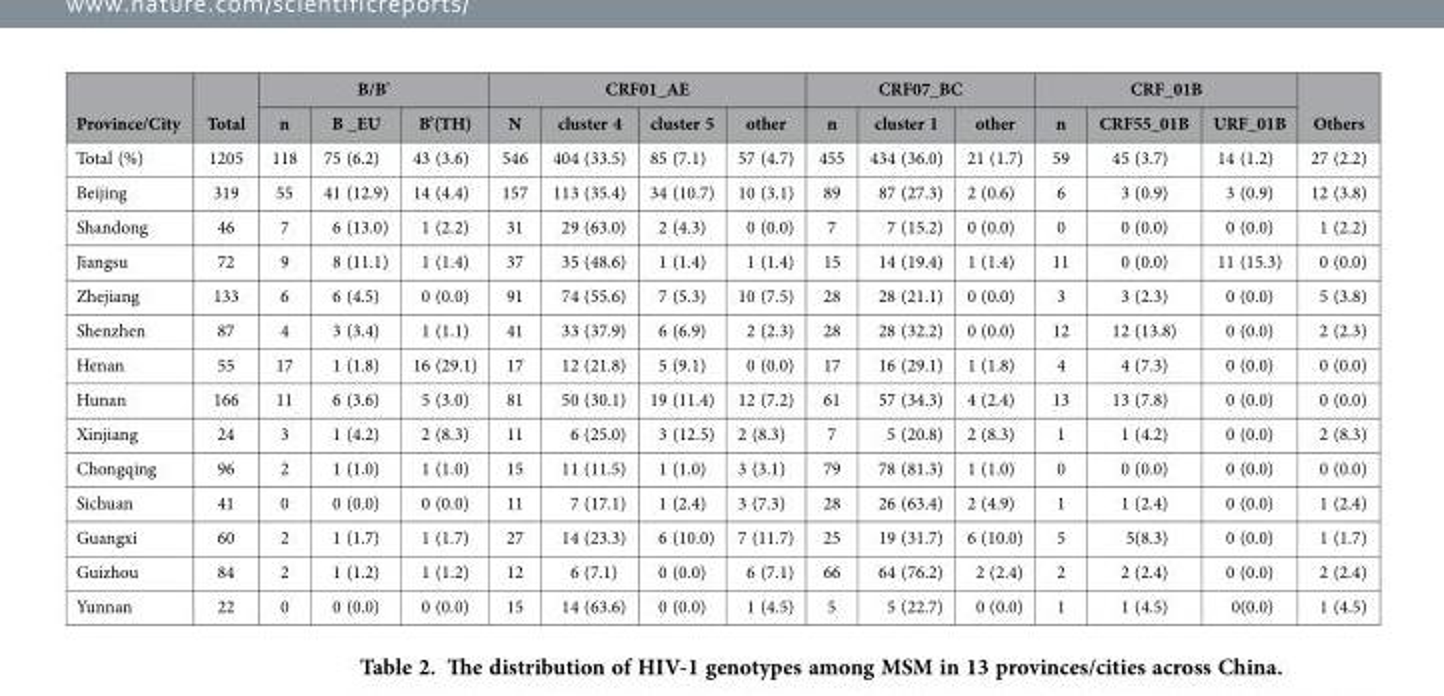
<table><thead><tr><td rowspan="2">Province/City</td><td rowspan="2">Total</td><td colspan="3">B/B’</td><td colspan="4">CRF01_AE</td><td colspan="3">CRF07_BC</td><td colspan="3">CRF_01B</td><td rowspan="2">Others</td></tr><tr><td>n</td><td>B _EU</td><td>B’(TH)</td><td>N</td><td>cluster 4</td><td>cluster 5</td><td>other</td><td>n</td><td>cluster 1</td><td>other</td><td>n</td><td>CRF55_01B</td><td>URF_01B</td></tr></thead><tbody><tr><td>Total (%)</td><td>1205</td><td>118</td><td>75 (6.2)</td><td>43 (3.6)</td><td>546</td><td>404 (33.5)</td><td>85 (7.1)</td><td>57 (4.7)</td><td>455</td><td>434 (36.0)</td><td>21 (1.7)</td><td>59</td><td>45 (3.7)</td><td>14 (1.2)</td><td>27 (2.2)</td></tr><tr><td>Beijing</td><td>319</td><td>55</td><td>41 (12.9)</td><td>14 (4.4)</td><td>157</td><td>113 (35.4)</td><td>34 (10.7)</td><td>10 (3.1)</td><td>89</td><td>87 (27.3)</td><td>2 (0.6)</td><td>6</td><td>3 (0.9)</td><td>3 (0.9)</td><td>12 (3.8)</td></tr><tr><td>Shandong</td><td>46</td><td>7</td><td>6 (13.0)</td><td>1 (2.2)</td><td>31</td><td>29 (63.0)</td><td>2 (4.3)</td><td>0 (0.0)</td><td>7</td><td>7 (15.2)</td><td>0 (0.0)</td><td>0</td><td>0 (0.0)</td><td>0 (0.0)</td><td>1 (2.2)</td></tr><tr><td>Jiangsu</td><td>72</td><td>9</td><td>8 (11.1)</td><td>1 (1.4)</td><td>37</td><td>35 (48.6)</td><td>1 (1.4)</td><td>1 (1.4)</td><td>15</td><td>14 (19.4)</td><td>1 (1.4)</td><td>11</td><td>0 (0.0)</td><td>11 (15.3)</td><td>0 (0.0)</td></tr><tr><td>Zhejiang</td><td>133</td><td>6</td><td>6 (4.5)</td><td>0 (0.0)</td><td>91</td><td>74 (55.6)</td><td>7 (5.3)</td><td>10 (7.5)</td><td>28</td><td>28 (21.1)</td><td>0 (0.0)</td><td>3</td><td>3 (2.3)</td><td>0 (0.0)</td><td>5 (3.8)</td></tr><tr><td>Shenzhen</td><td>87</td><td>4</td><td>3 (3.4)</td><td>1 (1.1)</td><td>41</td><td>33 (37.9)</td><td>6 (6.9)</td><td>2 (2.3)</td><td>28</td><td>28 (32.2)</td><td>0 (0.0)</td><td>12</td><td>12 (13.8)</td><td>0 (0.0)</td><td>2 (2.3)</td></tr><tr><td>Henan</td><td>55</td><td>17</td><td>1 (1.8)</td><td>16 (29.1)</td><td>17</td><td>12 (21.8)</td><td>5 (9.1)</td><td>0 (0.0)</td><td>17</td><td>16 (29.1)</td><td>1 (1.8)</td><td>4</td><td>4 (7.3)</td><td>0 (0.0)</td><td>0 (0.0)</td></tr><tr><td>Hunan</td><td>166</td><td>11</td><td>6 (3.6)</td><td>5 (3.0)</td><td>81</td><td>50 (30.1)</td><td>19 (11.4)</td><td>12 (7.2)</td><td>61</td><td>57 (34.3)</td><td>4 (2.4)</td><td>13</td><td>13 (7.8)</td><td>0 (0.0)</td><td>0 (0.0)</td></tr><tr><td>Xinjiang</td><td>24</td><td>3</td><td>1 (4.2)</td><td>2 (8.3)</td><td>11</td><td>6 (25.0)</td><td>3 (12.5)</td><td>2 (8.3)</td><td>7</td><td>5 (20.8)</td><td>2 (8.3)</td><td>1</td><td>1 (4.2)</td><td>0 (0.0)</td><td>2 (8.3)</td></tr><tr><td>Chongqing</td><td>96</td><td>2</td><td>1 (1.0)</td><td>1 (1.0)</td><td>15</td><td>11 (11.5)</td><td>1 (1.0)</td><td>3 (3.1)</td><td>79</td><td>78 (81.3)</td><td>1 (1.0)</td><td>0</td><td>0 (0.0)</td><td>0 (0.0)</td><td>0 (0.0)</td></tr><tr><td>Sichuan</td><td>41</td><td>0</td><td>0 (0.0)</td><td>0 (0.0)</td><td>11</td><td>7 (17.1)</td><td>1 (2.4)</td><td>3 (7.3)</td><td>28</td><td>26 (63.4)</td><td>2 (4.9)</td><td>1</td><td>1 (2.4)</td><td>0 (0.0)</td><td>1 (2.4)</td></tr><tr><td>Guangxi</td><td>60</td><td>2</td><td>1 (1.7)</td><td>1 (1.7)</td><td>27</td><td>14 (23.3)</td><td>6 (10.0)</td><td>7 (11.7)</td><td>25</td><td>19 (31.7)</td><td>6 (10.0)</td><td>5</td><td>5(8.3)</td><td>0 (0.0)</td><td>1 (1.7)</td></tr><tr><td>Guizhou</td><td>84</td><td>2</td><td>1 (1.2)</td><td>1 (1.2)</td><td>12</td><td>6 (7.1)</td><td>0 (0.0)</td><td>6 (7.1)</td><td>66</td><td>64 (76.2)</td><td>2 (2.4)</td><td>2</td><td>2 (2.4)</td><td>0 (0.0)</td><td>2 (2.4)</td></tr><tr><td>Yunnan</td><td>22</td><td>0</td><td>0 (0.0)</td><td>0 (0.0)</td><td>15</td><td>14 (63.6)</td><td>0 (0.0)</td><td>1 (4.5)</td><td>5</td><td>5 (22.7)</td><td>0 (0.0)</td><td>1</td><td>1 (4.5)</td><td>0(0.0)</td><td>1 (4.5)</td></tr></tbody></table>